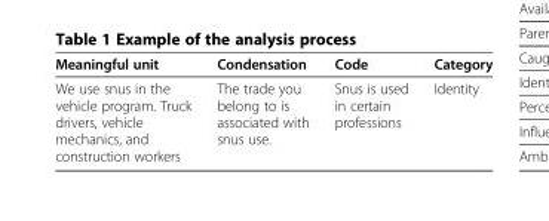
<table><thead><tr><td>Meaningful unit</td><td>Condensation</td><td>Code</td><td>Category</td></tr></thead><tbody><tr><td>We use snus in the vehicle program. Truck drivers, vehicle mechanics, and construction workers</td><td>The trade you belong to is associated with snus use.</td><td>Snus is used in certain professions</td><td>Identity</td></tr></tbody></table>